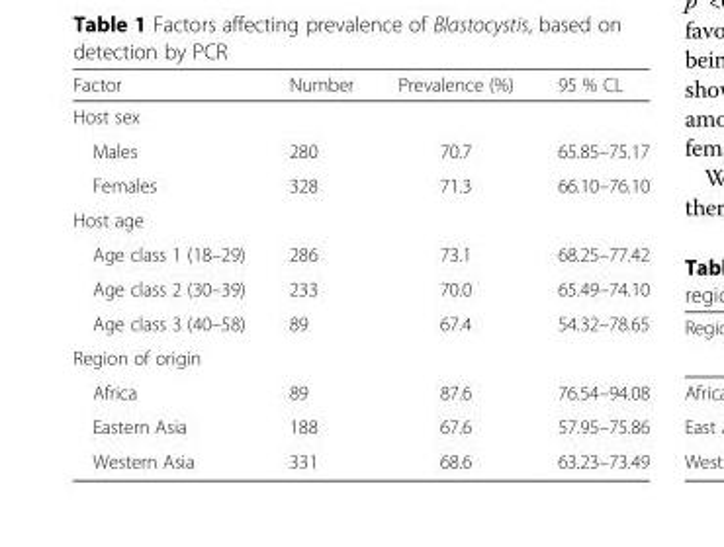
<table><thead><tr><td>Factor</td><td>Number</td><td>Prevalence (%)</td><td>95 % CL</td></tr></thead><tbody><tr><td colspan="4">Host sex</td></tr><tr><td>Males</td><td>280</td><td>70.7</td><td>65.85–75.17</td></tr><tr><td>Females</td><td>328</td><td>71.3</td><td>66.10–76.10</td></tr><tr><td colspan="4">Host age</td></tr><tr><td>Age class 1 (18–29)</td><td>286</td><td>73.1</td><td>68.25–77.42</td></tr><tr><td>Age class 2 (30–39)</td><td>233</td><td>70.0</td><td>65.49–74.10</td></tr><tr><td>Age class 3 (40–58)</td><td>89</td><td>67.4</td><td>54.32–78.65</td></tr><tr><td colspan="4">Region of origin</td></tr><tr><td>Africa</td><td>89</td><td>87.6</td><td>76.54–94.08</td></tr><tr><td>Eastern Asia</td><td>188</td><td>67.6</td><td>57.95–75.86</td></tr><tr><td>Western Asia</td><td>331</td><td>68.6</td><td>63.23–73.49</td></tr></tbody></table>